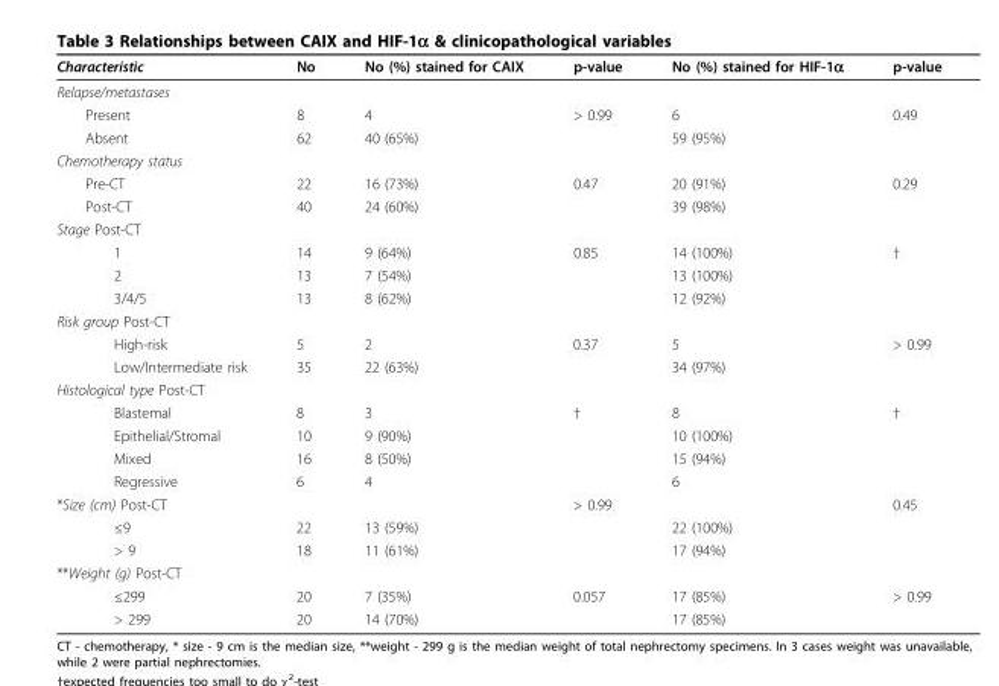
<table><thead><tr><td>Characteristic</td><td>No</td><td>No (%) stained for CAIX</td><td>p-value</td><td>No (%) stained for HIF-1α</td><td>p-value</td></tr></thead><tbody><tr><td colspan="6">Relapse/metastases</td></tr><tr><td>Present</td><td>8</td><td>4</td><td>&gt; 0.99</td><td>6</td><td>0.49</td></tr><tr><td>Absent</td><td>62</td><td>40 (65%)</td><td></td><td>59 (95%)</td><td></td></tr><tr><td colspan="6">Chemotherapy status</td></tr><tr><td>Pre-CT</td><td>22</td><td>16 (73%)</td><td>0.47</td><td>20 (91%)</td><td>0.29</td></tr><tr><td>Post-CT</td><td>40</td><td>24 (60%)</td><td></td><td>39 (98%)</td><td></td></tr><tr><td colspan="6">Stage Post-CT</td></tr><tr><td>1</td><td>14</td><td>9 (64%)</td><td>0.85</td><td>14 (100%)</td><td>†</td></tr><tr><td>2</td><td>13</td><td>7 (54%)</td><td></td><td>13 (100%)</td><td></td></tr><tr><td>3/4/5</td><td>13</td><td>8 (62%)</td><td></td><td>12 (92%)</td><td></td></tr><tr><td colspan="6">Risk group Post-CT</td></tr><tr><td>High-risk</td><td>5</td><td>2</td><td>0.37</td><td>5</td><td>&gt; 0.99</td></tr><tr><td>Low/Intermediate risk</td><td>35</td><td>22 (63%)</td><td></td><td>34 (97%)</td><td></td></tr><tr><td colspan="6">Histological type Post-CT</td></tr><tr><td>Blastemal</td><td>8</td><td>3</td><td>†</td><td>8</td><td>†</td></tr><tr><td>Epithelial/Stromal</td><td>10</td><td>9 (90%)</td><td></td><td>10 (100%)</td><td></td></tr><tr><td>Mixed</td><td>16</td><td>8 (50%)</td><td></td><td>15 (94%)</td><td></td></tr><tr><td>Regressive</td><td>6</td><td>4</td><td></td><td>6</td><td></td></tr><tr><td>*Size (cm) Post-CT</td><td></td><td></td><td>&gt; 0.99</td><td></td><td>0.45</td></tr><tr><td>≤9</td><td>22</td><td>13 (59%)</td><td></td><td>22 (100%)</td><td></td></tr><tr><td>&gt; 9</td><td>18</td><td>11 (61%)</td><td></td><td>17 (94%)</td><td></td></tr><tr><td colspan="6">**Weight (g) Post-CT</td></tr><tr><td>≤299</td><td>20</td><td>7 (35%)</td><td>0.057</td><td>17 (85%)</td><td>&gt; 0.99</td></tr><tr><td>&gt; 299</td><td>20</td><td>14 (70%)</td><td></td><td>17 (85%)</td><td></td></tr></tbody></table>